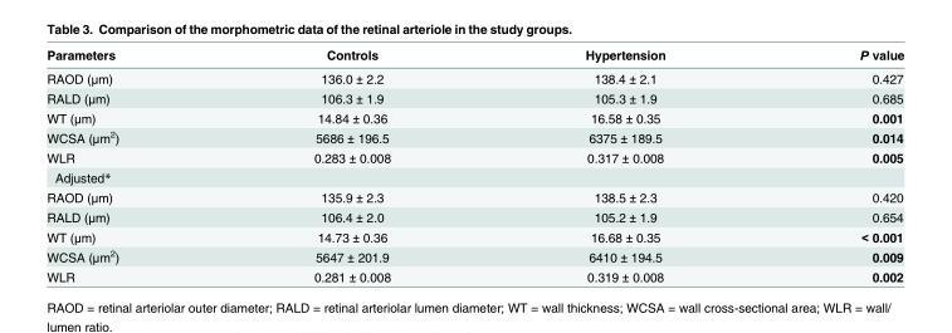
<table><thead><tr><td>Parameters</td><td>Controls</td><td>Hypertension</td><td>P value</td></tr></thead><tbody><tr><td>RAOD (μm)</td><td>136.0 ± 2.2</td><td>138.4 ± 2.1</td><td>0.427</td></tr><tr><td>RALD (μm)</td><td>106.3 ± 1.9</td><td>105.3 ± 1.9</td><td>0.685</td></tr><tr><td>WT (μm)</td><td>14.84 ± 0.36</td><td>16.58 ± 0.35</td><td>0.001</td></tr><tr><td>WCSA (μm<sup>2</sup>)</td><td>5686 ± 196.5</td><td>6375 ± 189.5</td><td>0.014</td></tr><tr><td>WLR</td><td>0.283 ± 0.008</td><td>0.317 ± 0.008</td><td>0.005</td></tr><tr><td colspan="4">Adjusted*</td></tr><tr><td>RAOD (μm)</td><td>135.9 ± 2.3</td><td>138.5 ± 2.3</td><td>0.420</td></tr><tr><td>RALD (μm)</td><td>106.4 ± 2.0</td><td>105.2 ± 1.9</td><td>0.654</td></tr><tr><td>WT (μm)</td><td>14.73 ± 0.36</td><td>16.68 ± 0.35</td><td>&lt; 0.001</td></tr><tr><td>WCSA (μm<sup>2</sup>)</td><td>5647 ± 201.9</td><td>6410 ± 194.5</td><td>0.009</td></tr><tr><td>WLR</td><td>0.281 ± 0.008</td><td>0.319 ± 0.008</td><td>0.002</td></tr></tbody></table>